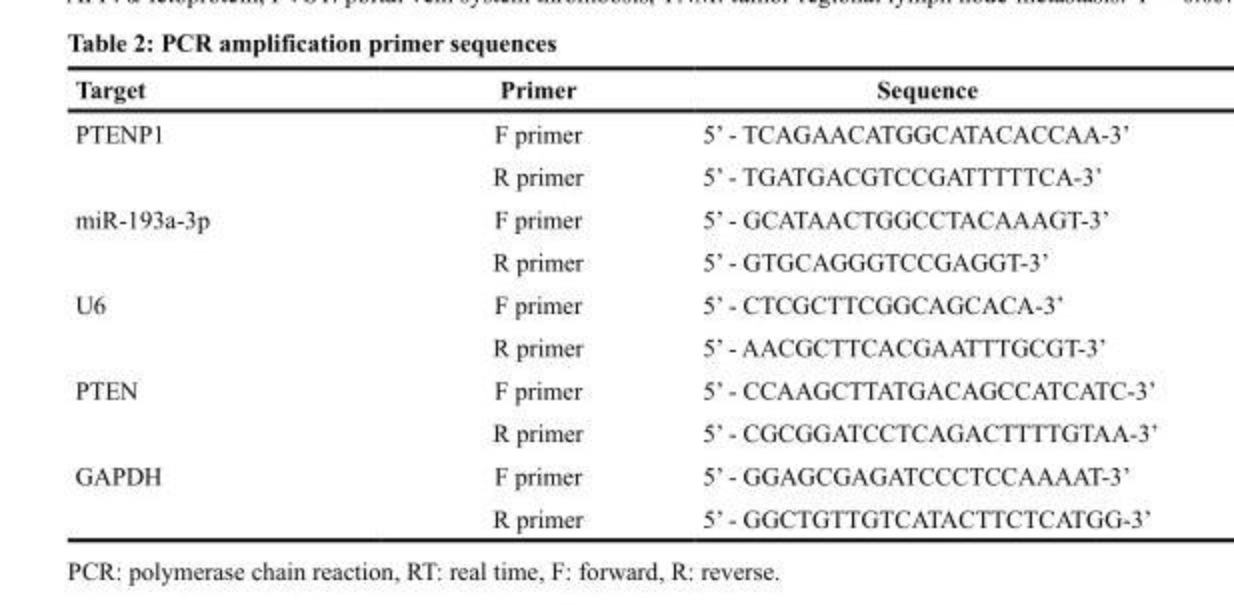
<table><thead><tr><td>Target</td><td>Primer</td><td>Sequence</td></tr></thead><tbody><tr><td rowspan="2">PTENP1</td><td>F primer</td><td>5’ - TCAGAACATGGCATACACCAA-3’</td></tr><tr><td>R primer</td><td>5’ - TGATGACGTCCGATTTTTCA-3’</td></tr><tr><td rowspan="2">miR-193a-3p</td><td>F primer</td><td>5’ - GCATAACTGGCCTACAAAGT-3’</td></tr><tr><td>R primer</td><td>5’ - GTGCAGGGTCCGAGGT-3’</td></tr><tr><td rowspan="2">U6</td><td>F primer</td><td>5’ - CTCGCTTCGGCAGCACA-3’</td></tr><tr><td>R primer</td><td>5’ - AACGCTTCACGAATTTGCGT-3’</td></tr><tr><td rowspan="2">PTEN</td><td>F primer</td><td>5’ - CCAAGCTTATGACAGCCATCATC-3’</td></tr><tr><td>R primer</td><td>5’ - CGCGGATCCTCAGACTTTTGTAA-3’</td></tr><tr><td rowspan="2">GAPDH</td><td>F primer</td><td>5’ - GGAGCGAGATCCCTCCAAAAT-3’</td></tr><tr><td>R primer</td><td>5’ - GGCTGTTGTCATACTTCTCATGG-3’</td></tr></tbody></table>